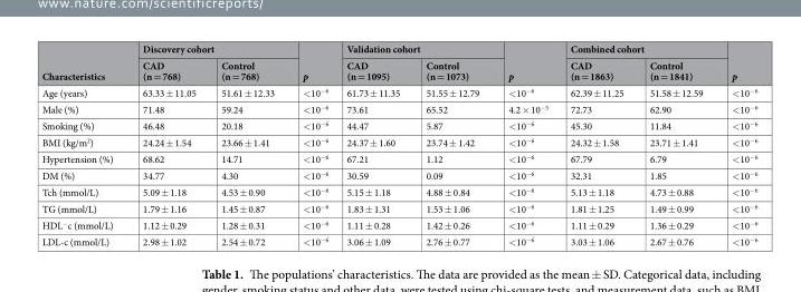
<table><thead><tr><td rowspan="2">Characteristics</td><td colspan="2">Discovery cohort</td><td rowspan="2">p</td><td colspan="2">Validation cohort</td><td rowspan="2">p</td><td colspan="2">Combined cohort</td><td rowspan="2">p</td></tr><tr><td>CAD (n = 768)</td><td>Control (n = 768)</td><td>CAD (n = 1095)</td><td>Control (n = 1073)</td><td>CAD (n = 1863)</td><td>Control (n = 1841)</td></tr></thead><tbody><tr><td>Age (years)</td><td>63.33 ± 11.05</td><td>51.61 ± 12.33</td><td>&lt;10<sup>−6</sup></td><td>61.73 ± 11.35</td><td>51.55 ± 12.79</td><td>&lt;10<sup>−6</sup></td><td>62.39 ± 11.25</td><td>51.58 ± 12.59</td><td>&lt;10<sup>−6</sup></td></tr><tr><td>Male (%)</td><td>71.48</td><td>59.24</td><td>&lt;10<sup>−6</sup></td><td>73.61</td><td>65.52</td><td>4.2 × 10<sup>−5</sup></td><td>72.73</td><td>62.90</td><td>&lt;10<sup>−6</sup></td></tr><tr><td>Smoking (%)</td><td>46.48</td><td>20.18</td><td>&lt;10<sup>−6</sup></td><td>44.47</td><td>5.87</td><td>&lt;10<sup>−6</sup></td><td>45.30</td><td>11.84</td><td>&lt;10<sup>−6</sup></td></tr><tr><td>BMI (kg/m<sup>2</sup>)</td><td>24.24 ± 1.54</td><td>23.66 ± 1.41</td><td>&lt;10<sup>−6</sup></td><td>24.37 ± 1.60</td><td>23.74 ± 1.42</td><td>&lt;10<sup>−6</sup></td><td>24.32 ± 1.58</td><td>23.71 ± 1.41</td><td>&lt;10<sup>−6</sup></td></tr><tr><td>Hypertension (%)</td><td>68.62</td><td>14.71</td><td>&lt;10<sup>−6</sup></td><td>67.21</td><td>1.12</td><td>&lt;10<sup>−6</sup></td><td>67.79</td><td>6.79</td><td>&lt;10<sup>−6</sup></td></tr><tr><td>DM (%)</td><td>34.77</td><td>4.30</td><td>&lt;10<sup>−6</sup></td><td>30.59</td><td>0.09</td><td>&lt;10<sup>−6</sup></td><td>32.31</td><td>1.85</td><td>&lt;10<sup>−6</sup></td></tr><tr><td>Tch (mmol/L)</td><td>5.09 ± 1.18</td><td>4.53 ± 0.90</td><td>&lt;10<sup>−6</sup></td><td>5.15 ± 1.18</td><td>4.88 ± 0.84</td><td>&lt;10<sup>−6</sup></td><td>5.13 ± 1.18</td><td>4.73 ± 0.88</td><td>&lt;10<sup>−6</sup></td></tr><tr><td>TG (mmol/L)</td><td>1.79 ± 1.16</td><td>1.45 ± 0.87</td><td>&lt;10<sup>−6</sup></td><td>1.83 ± 1.31</td><td>1.53 ± 1.06</td><td>&lt;10<sup>−6</sup></td><td>1.81 ± 1.25</td><td>1.49 ± 0.99</td><td>&lt;10<sup>−6</sup></td></tr><tr><td>HDL<sup>−</sup>c (mmol/L)</td><td>1.12 ± 0.29</td><td>1.28 ± 0.31</td><td>&lt;10<sup>−6</sup></td><td>1.11 ± 0.28</td><td>1.42 ± 0.26</td><td>&lt;10<sup>−6</sup></td><td>1.11 ± 0.29</td><td>1.36 ± 0.29</td><td>&lt;10<sup>−6</sup></td></tr><tr><td>LDL-c (mmol/L)</td><td>2.98 ± 1.02</td><td>2.54 ± 0.72</td><td>&lt;10<sup>−6</sup></td><td>3.06 ± 1.09</td><td>2.76 ± 0.77</td><td>&lt;10<sup>−6</sup></td><td>3.03 ± 1.06</td><td>2.67 ± 0.76</td><td>&lt;10<sup>−6</sup></td></tr></tbody></table>